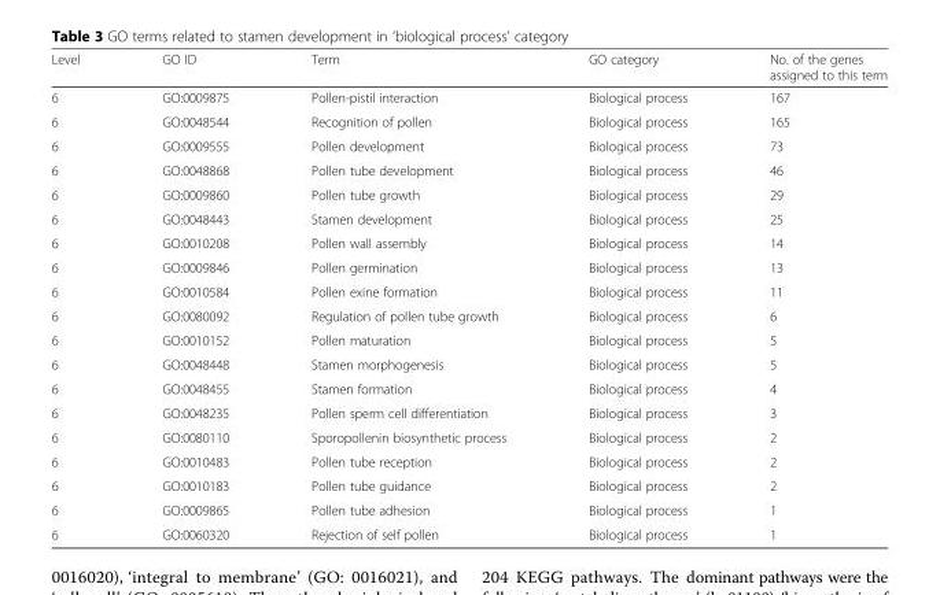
<table><thead><tr><td>Level</td><td>GO ID</td><td>Term</td><td>GO category</td><td>No. of the genes assigned to this term</td></tr></thead><tbody><tr><td>6</td><td>GO:0009875</td><td>Pollen-pistil interaction</td><td>Biological process</td><td>167</td></tr><tr><td>6</td><td>GO:0048544</td><td>Recognition of pollen</td><td>Biological process</td><td>165</td></tr><tr><td>6</td><td>GO:0009555</td><td>Pollen development</td><td>Biological process</td><td>73</td></tr><tr><td>6</td><td>GO:0048868</td><td>Pollen tube development</td><td>Biological process</td><td>46</td></tr><tr><td>6</td><td>GO:0009860</td><td>Pollen tube growth</td><td>Biological process</td><td>29</td></tr><tr><td>6</td><td>GO:0048443</td><td>Stamen development</td><td>Biological process</td><td>25</td></tr><tr><td>6</td><td>GO:0010208</td><td>Pollen wall assembly</td><td>Biological process</td><td>14</td></tr><tr><td>6</td><td>GO:0009846</td><td>Pollen germination</td><td>Biological process</td><td>13</td></tr><tr><td>6</td><td>GO:0010584</td><td>Pollen exine formation</td><td>Biological process</td><td>11</td></tr><tr><td>6</td><td>GO:0080092</td><td>Regulation of pollen tube growth</td><td>Biological process</td><td>6</td></tr><tr><td>6</td><td>GO:0010152</td><td>Pollen maturation</td><td>Biological process</td><td>5</td></tr><tr><td>6</td><td>GO:0048448</td><td>Stamen morphogenesis</td><td>Biological process</td><td>5</td></tr><tr><td>6</td><td>GO:0048455</td><td>Stamen formation</td><td>Biological process</td><td>4</td></tr><tr><td>6</td><td>GO:0048235</td><td>Pollen sperm cell differentiation</td><td>Biological process</td><td>3</td></tr><tr><td>6</td><td>GO:0080110</td><td>Sporopollenin biosynthetic process</td><td>Biological process</td><td>2</td></tr><tr><td>6</td><td>GO:0010483</td><td>Pollen tube reception</td><td>Biological process</td><td>2</td></tr><tr><td>6</td><td>GO:0010183</td><td>Pollen tube guidance</td><td>Biological process</td><td>2</td></tr><tr><td>6</td><td>GO:0009865</td><td>Pollen tube adhesion</td><td>Biological process</td><td>1</td></tr><tr><td>6</td><td>GO:0060320</td><td>Rejection of self pollen</td><td>Biological process</td><td>1</td></tr></tbody></table>